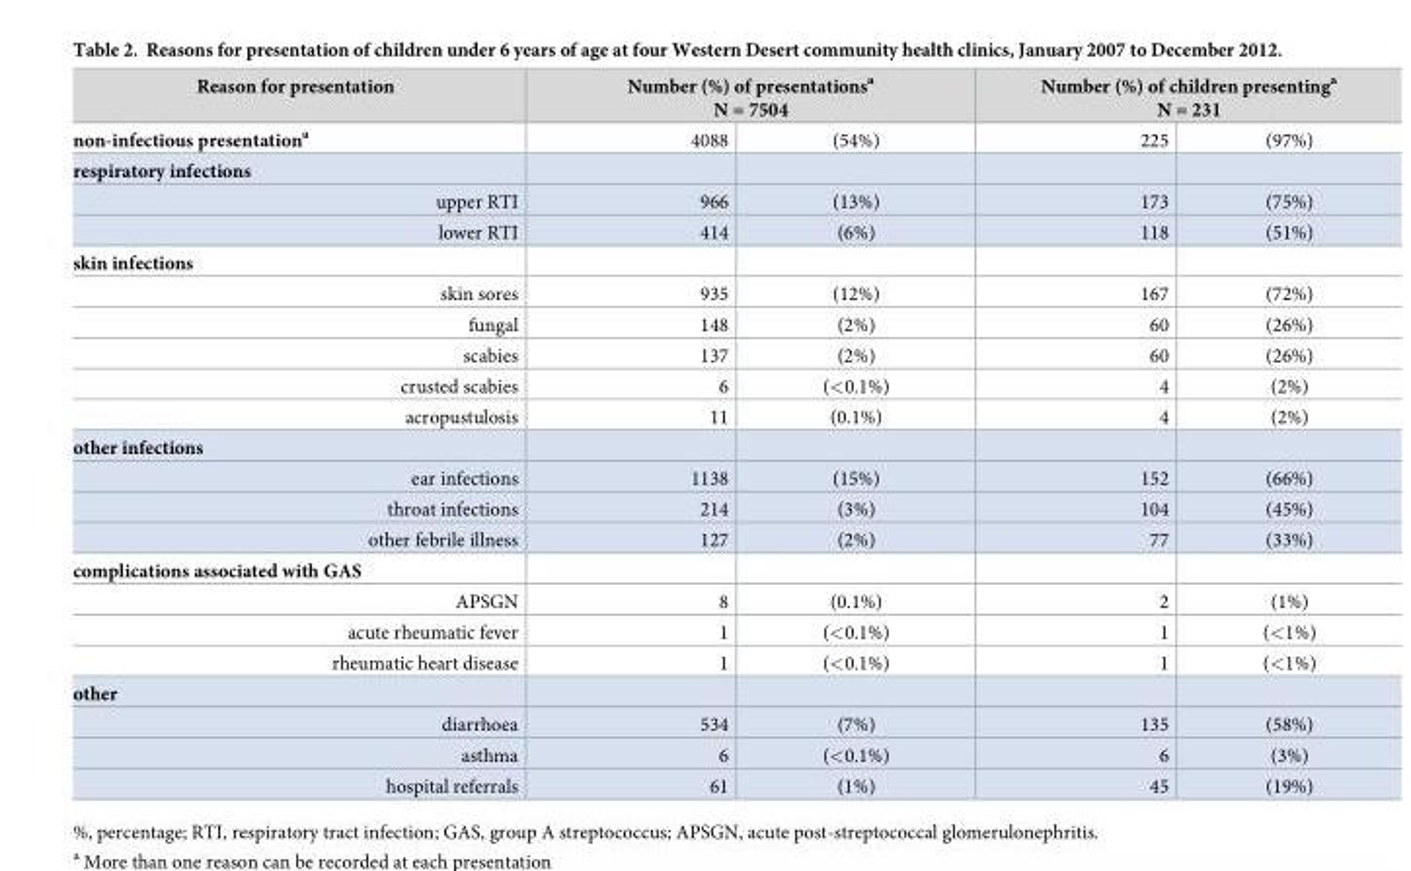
<table><thead><tr><td rowspan="2">Reason for presentation non-infectious presentation<sup>a</sup></td><td colspan="2">Number (%) of presentations<sup>a</sup> N = 7504</td><td colspan="2">Number (%) of children presenting<sup>a</sup> N = 231</td></tr><tr><td>4088</td><td>(54%)</td><td>225</td><td>(97%)</td></tr></thead><tbody><tr><td colspan="5">respiratory infections</td></tr><tr><td>upper RTI</td><td>966</td><td>(13%)</td><td>173</td><td>(75%)</td></tr><tr><td>lower RTI</td><td>414</td><td>(6%)</td><td>118</td><td>(51%)</td></tr><tr><td colspan="5">skin infections</td></tr><tr><td>skin sores</td><td>935</td><td>(12%)</td><td>167</td><td>(72%)</td></tr><tr><td>fungal</td><td>148</td><td>(2%)</td><td>60</td><td>(26%)</td></tr><tr><td>scabies</td><td>137</td><td>(2%)</td><td>60</td><td>(26%)</td></tr><tr><td>crusted scabies</td><td>6</td><td>(&lt;0.1%)</td><td>4</td><td>(2%)</td></tr><tr><td>acropustulosis</td><td>11</td><td>(0.1%)</td><td>4</td><td>(2%)</td></tr><tr><td colspan="5">other infections</td></tr><tr><td>ear infections</td><td>1138</td><td>(15%)</td><td>152</td><td>(66%)</td></tr><tr><td>throat infections</td><td>214</td><td>(3%)</td><td>104</td><td>(45%)</td></tr><tr><td>other febrile illness</td><td>127</td><td>(2%)</td><td>77</td><td>(33%)</td></tr><tr><td colspan="5">complications associated with GAS</td></tr><tr><td>APSGN</td><td>8</td><td>(0.1%)</td><td>2</td><td>(1%)</td></tr><tr><td>acute rheumatic fever</td><td>1</td><td>(&lt;0.1%)</td><td>1</td><td>(&lt;1%)</td></tr><tr><td>rheumatic heart disease</td><td>1</td><td>(&lt;0.1%)</td><td>1</td><td>(&lt;1%)</td></tr><tr><td colspan="5">other</td></tr><tr><td>diarrhoea</td><td>534</td><td>(7%)</td><td>135</td><td>(58%)</td></tr><tr><td>asthma</td><td>6</td><td>(&lt;0.1%)</td><td>6</td><td>(3%)</td></tr><tr><td>hospital referrals</td><td>61</td><td>(1%)</td><td>45</td><td>(19%)</td></tr></tbody></table>